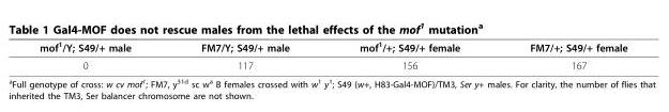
<table><thead><tr><td>mof<sup>1</sup>/Y; S49/+ male</td><td>FM7/Y; S49/+ male</td><td>mof<sup>1</sup>/+; S49/+ female</td><td>FM7/+; S49/+ female</td></tr></thead><tbody><tr><td>0</td><td>117</td><td>156</td><td>167</td></tr></tbody></table>